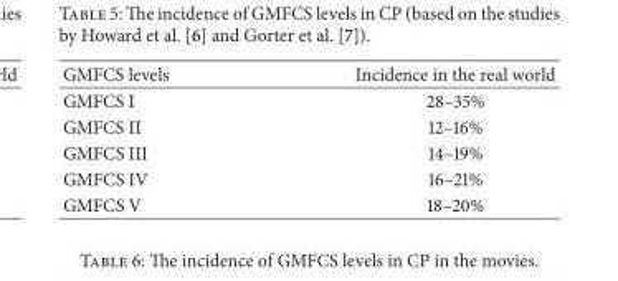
<table><thead><tr><td>GMFCS levels</td><td>Incidence in the real world</td></tr></thead><tbody><tr><td>GMFCS I</td><td>28–35%</td></tr><tr><td>GMFCS II</td><td>12–16%</td></tr><tr><td>GMFCS III</td><td>14–19%</td></tr><tr><td>GMFCS IV</td><td>16–21%</td></tr><tr><td>GMFCS V</td><td>18–20%</td></tr></tbody></table>